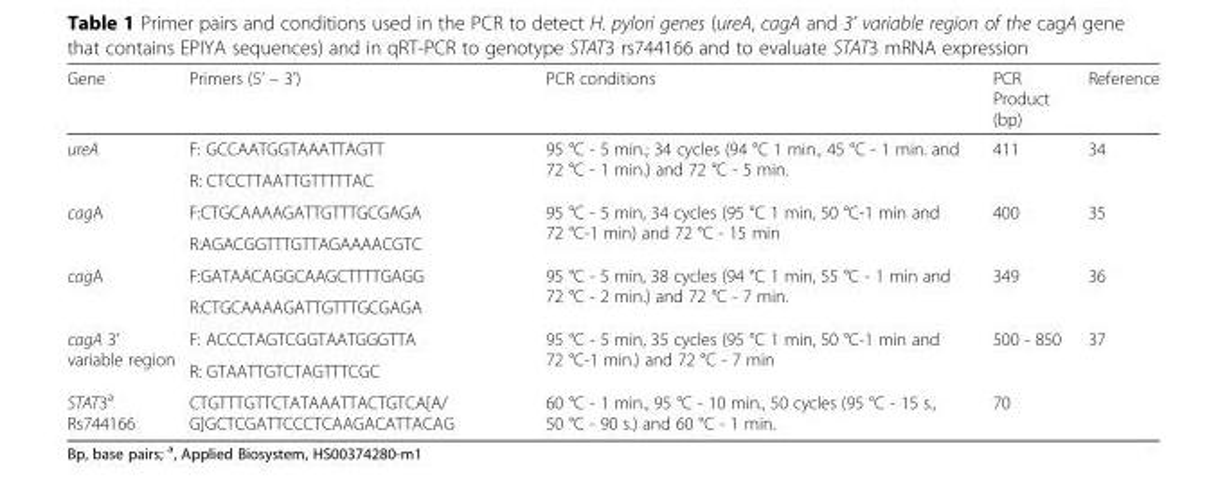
<table><thead><tr><td>Gene</td><td>Primers (5’ – 3’)</td><td>PCR conditions</td><td>PCR Product (bp)</td><td>Reference</td></tr></thead><tbody><tr><td rowspan="2">ureA</td><td>F: GCCAATGGTAAATTAGTT</td><td rowspan="2">95 °C - 5 min.; 34 cycles (94 °C 1 min., 45 °C - 1 min. and 72 °C - 1 min.) and 72 °C - 5 min.</td><td rowspan="2">411</td><td rowspan="2">34</td></tr><tr><td>R: CTCCTTAATTGTTTTTAC</td></tr><tr><td rowspan="2">cagA</td><td>F:CTGCAAAAGATTGTTTGCGAGA</td><td rowspan="2">95 °C - 5 min, 34 cycles (95 °C 1 min, 50 °C-1 min and 72 °C-1 min) and 72 °C - 15 min</td><td rowspan="2">400</td><td rowspan="2">35</td></tr><tr><td>R:AGACGGTTTGTTAGAAAACGTC</td></tr><tr><td rowspan="2">cagA</td><td>F:GATAACAGGCAAGCTTTTGAGG</td><td rowspan="2">95 °C - 5 min, 38 cycles (94 °C 1 min, 55 °C - 1 min and 72 °C - 2 min.) and 72 °C - 7 min.</td><td rowspan="2">349</td><td rowspan="2">36</td></tr><tr><td>R:CTGCAAAAGATTGTTTGCGAGA</td></tr><tr><td rowspan="2">cagA 3’ variable region</td><td>F: ACCCTAGTCGGTAATGGGTTA</td><td rowspan="2">95 °C - 5 min, 35 cycles (95 °C 1 min, 50 °C-1 min and 72 °C-1 min.) and 72 °C - 7 min</td><td rowspan="2">500 - 850</td><td rowspan="2">37</td></tr><tr><td>R: GTAATTGTCTAGTTTCGC</td></tr><tr><td>STAT3<sup>a</sup> Rs744166</td><td>CTGTTTGTTCTATAAATTACTGTCA[A/ G]GCTCGATTCCCTCAAGACATTACAG</td><td>60 °C - 1 min., 95 °C - 10 min., 50 cycles (95 °C - 15 s., 50 °C - 90 s.) and 60 °C - 1 min.</td><td>70</td><td></td></tr></tbody></table>